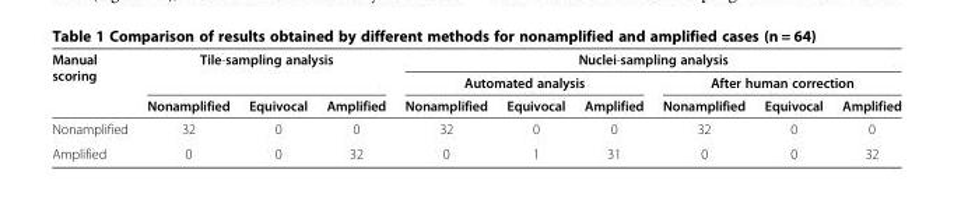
<table><thead><tr><td rowspan="3">Manual scoring</td><td rowspan="2" colspan="3">Tile-sampling analysis</td><td colspan="6">Nuclei-sampling analysis</td></tr><tr><td colspan="3">Automated analysis</td><td colspan="3">After human correction</td></tr><tr><td>Nonamplified</td><td>Equivocal</td><td>Amplified</td><td>Nonamplified</td><td>Equivocal</td><td>Amplified</td><td>Nonamplified</td><td>Equivocal</td><td>Amplified</td></tr></thead><tbody><tr><td>Nonamplified</td><td>32</td><td>0</td><td>0</td><td>32</td><td>0</td><td>0</td><td>32</td><td>0</td><td>0</td></tr><tr><td>Amplified</td><td>0</td><td>0</td><td>32</td><td>0</td><td>1</td><td>31</td><td>0</td><td>0</td><td>32</td></tr></tbody></table>